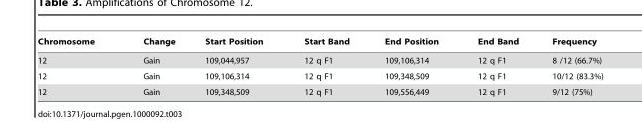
<table><thead><tr><td>Chromosome</td><td>Change</td><td>Start Position</td><td>Start Band</td><td>End Position</td><td>End Band</td><td>Frequency</td></tr></thead><tbody><tr><td>12</td><td>Gain</td><td>109,044,957</td><td>12 q F1</td><td>109,106,314</td><td>12 q F1</td><td>8 /12 (66.7%)</td></tr><tr><td>12</td><td>Gain</td><td>109,106,314</td><td>12 q F1</td><td>109,348,509</td><td>12 q F1</td><td>10/12 (83.3%)</td></tr><tr><td>12</td><td>Gain</td><td>109,348,509</td><td>12 q F1</td><td>109,556,449</td><td>12 q F1</td><td>9/12 (75%)</td></tr></tbody></table>